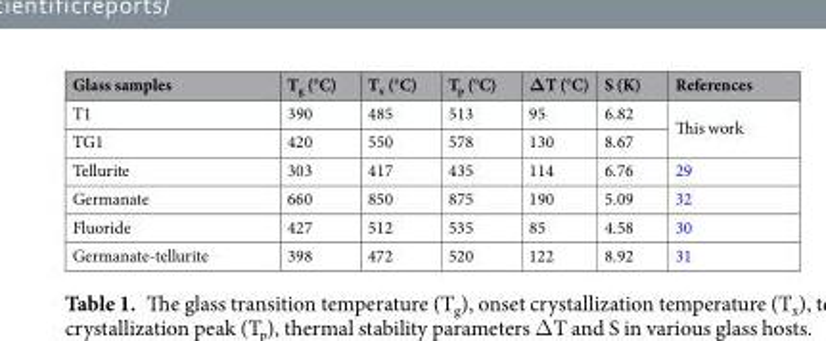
<table><thead><tr><td>Glass samples</td><td>T<sub>g</sub> (°C)</td><td>T<sub>x</sub> (°C)</td><td>T<sub>p</sub> (°C)</td><td>ΔT (°C)</td><td>S (K)</td><td>References</td></tr></thead><tbody><tr><td>T1</td><td>390</td><td>485</td><td>513</td><td>95</td><td>6.82</td><td rowspan="2">This work</td></tr><tr><td>TG1</td><td>420</td><td>550</td><td>578</td><td>130</td><td>8.67</td></tr><tr><td>Tellurite</td><td>303</td><td>417</td><td>435</td><td>114</td><td>6.76</td><td>29</td></tr><tr><td>Germanate</td><td>660</td><td>850</td><td>875</td><td>190</td><td>5.09</td><td>32</td></tr><tr><td>Fluoride</td><td>427</td><td>512</td><td>535</td><td>85</td><td>4.58</td><td>30</td></tr><tr><td>Germanate-tellurite</td><td>398</td><td>472</td><td>520</td><td>122</td><td>8.92</td><td>31</td></tr></tbody></table>